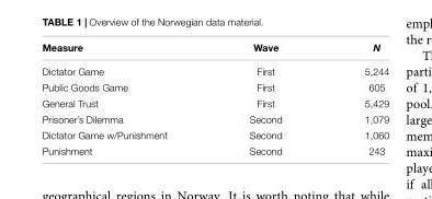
<table><thead><tr><td>Measure</td><td>Wave</td><td>N</td></tr></thead><tbody><tr><td>Dictator Game</td><td>First</td><td>5,244</td></tr><tr><td>Public Goods Game</td><td>First</td><td>605</td></tr><tr><td>General Trust</td><td>First</td><td>5,429</td></tr><tr><td>Prisoner’s Dilemma</td><td>Second</td><td>1,079</td></tr><tr><td>Dictator Game w/Punishment</td><td>Second</td><td>1,060</td></tr><tr><td>Punishment</td><td>Second</td><td>243</td></tr></tbody></table>